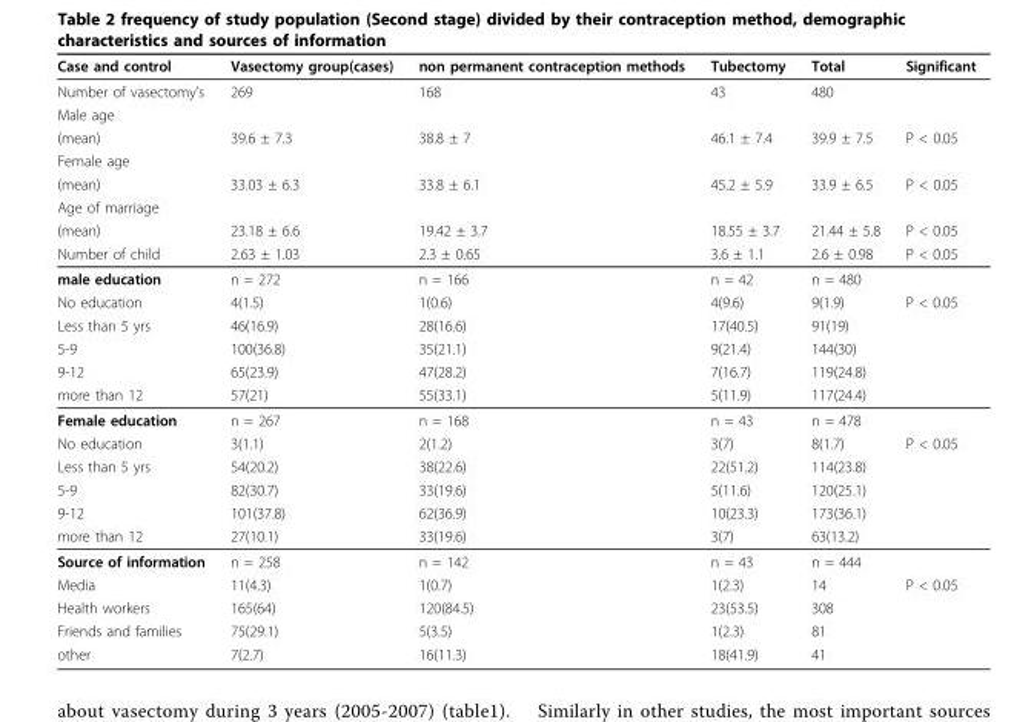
<table><thead><tr><td>Case and control</td><td>Vasectomy group(cases)</td><td>non permanent contraception methods</td><td>Tubectomy</td><td>Total</td><td>Significant</td></tr></thead><tbody><tr><td>Number of vasectomy’s</td><td>269</td><td>168</td><td>43</td><td>480</td><td></td></tr><tr><td colspan="6">Male age</td></tr><tr><td>(mean)</td><td>39.6 ± 7.3</td><td>38.8 ± 7</td><td>46.1 ± 7.4</td><td>39.9 ± 7.5</td><td>P &lt; 0.05</td></tr><tr><td colspan="6">Female age</td></tr><tr><td>(mean)</td><td>33.03 ± 6.3</td><td>33.8 ± 6.1</td><td>45.2 ± 5.9</td><td>33.9 ± 6.5</td><td>P &lt; 0.05</td></tr><tr><td colspan="6">Age of marriage</td></tr><tr><td>(mean)</td><td>23.18 ± 6.6</td><td>19.42 ± 3.7</td><td>18.55 ± 3.7</td><td>21.44 ± 5.8</td><td>P &lt; 0.05</td></tr><tr><td>Number of child</td><td>2.63 ± 1.03</td><td>2.3 ± 0.65</td><td>3.6 ± 1.1</td><td>2.6 ± 0.98</td><td>P &lt; 0.05</td></tr><tr><td>male education</td><td>n = 272</td><td>n = 166</td><td>n = 42</td><td>n = 480</td><td></td></tr><tr><td>No education</td><td>4(1.5)</td><td>1(0.6)</td><td>4(9.6)</td><td>9(1.9)</td><td>P &lt; 0.05</td></tr><tr><td>Less than 5 yrs</td><td>46(16.9)</td><td>28(16.6)</td><td>17(40.5)</td><td>91(19)</td><td></td></tr><tr><td>5-9</td><td>100(36.8)</td><td>35(21.1)</td><td>9(21.4)</td><td>144(30)</td><td></td></tr><tr><td>9-12</td><td>65(23.9)</td><td>47(28.2)</td><td>7(16.7)</td><td>119(24.8)</td><td></td></tr><tr><td>more than 12</td><td>57(21)</td><td>55(33.1)</td><td>5(11.9)</td><td>117(24.4)</td><td></td></tr><tr><td>Female education</td><td>n = 267</td><td>n = 168</td><td>n = 43</td><td>n = 478</td><td></td></tr><tr><td>No education</td><td>3(1.1)</td><td>2(1.2)</td><td>3(7)</td><td>8(1.7)</td><td>P &lt; 0.05</td></tr><tr><td>Less than 5 yrs</td><td>54(20.2)</td><td>38(22.6)</td><td>22(51.2)</td><td>114(23.8)</td><td></td></tr><tr><td>5-9</td><td>82(30.7)</td><td>33(19.6)</td><td>5(11.6)</td><td>120(25.1)</td><td></td></tr><tr><td>9-12</td><td>101(37.8)</td><td>62(36.9)</td><td>10(23.3)</td><td>173(36.1)</td><td></td></tr><tr><td>more than 12</td><td>27(10.1)</td><td>33(19.6)</td><td>3(7)</td><td>63(13.2)</td><td></td></tr><tr><td>Source of information</td><td>n = 258</td><td>n = 142</td><td>n = 43</td><td>n = 444</td><td></td></tr><tr><td>Media</td><td>11(4.3)</td><td>1(0.7)</td><td>1(2.3)</td><td>14</td><td>P &lt; 0.05</td></tr><tr><td>Health workers</td><td>165(64)</td><td>120(84.5)</td><td>23(53.5)</td><td>308</td><td></td></tr><tr><td>Friends and families</td><td>75(29.1)</td><td>5(3.5)</td><td>1(2.3)</td><td>81</td><td></td></tr><tr><td>other</td><td>7(2.7)</td><td>16(11.3)</td><td>18(41.9)</td><td>41</td><td></td></tr></tbody></table>